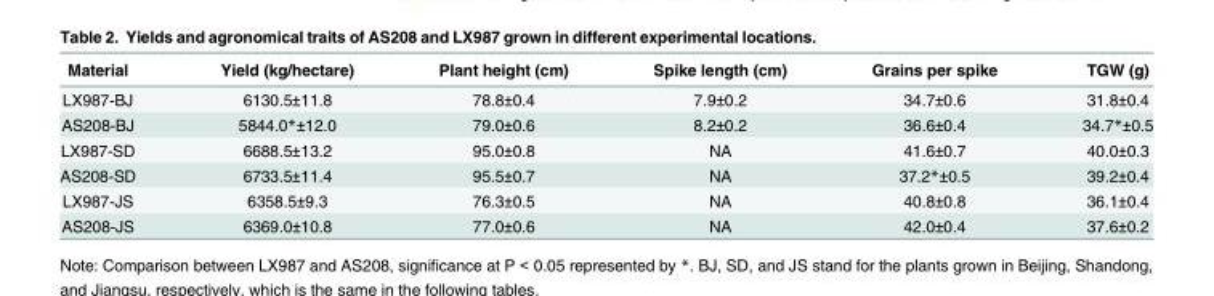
<table><thead><tr><td>Material</td><td>Yield (kg/hectare)</td><td>Plant height (cm)</td><td>Spike length (cm)</td><td>Grains per spike</td><td>TGW (g)</td></tr></thead><tbody><tr><td>LX987-BJ</td><td>6130.5±11.8</td><td>78.8±0.4</td><td>7.9±0.2</td><td>34.7±0.6</td><td>31.8±0.4</td></tr><tr><td>AS208-BJ</td><td>5844.0*±12.0</td><td>79.0±0.6</td><td>8.2±0.2</td><td>36.6±0.4</td><td>34.7*±0.5</td></tr><tr><td>LX987-SD</td><td>6688.5±13.2</td><td>95.0±0.8</td><td>NA</td><td>41.6±0.7</td><td>40.0±0.3</td></tr><tr><td>AS208-SD</td><td>6733.5±11.4</td><td>95.5±0.7</td><td>NA</td><td>37.2*±0.5</td><td>39.2±0.4</td></tr><tr><td>LX987-JS</td><td>6358.5±9.3</td><td>76.3±0.5</td><td>NA</td><td>40.8±0.8</td><td>36.1±0.4</td></tr><tr><td>AS208-JS</td><td>6369.0±10.8</td><td>77.0±0.6</td><td>NA</td><td>42.0±0.4</td><td>37.6±0.2</td></tr></tbody></table>